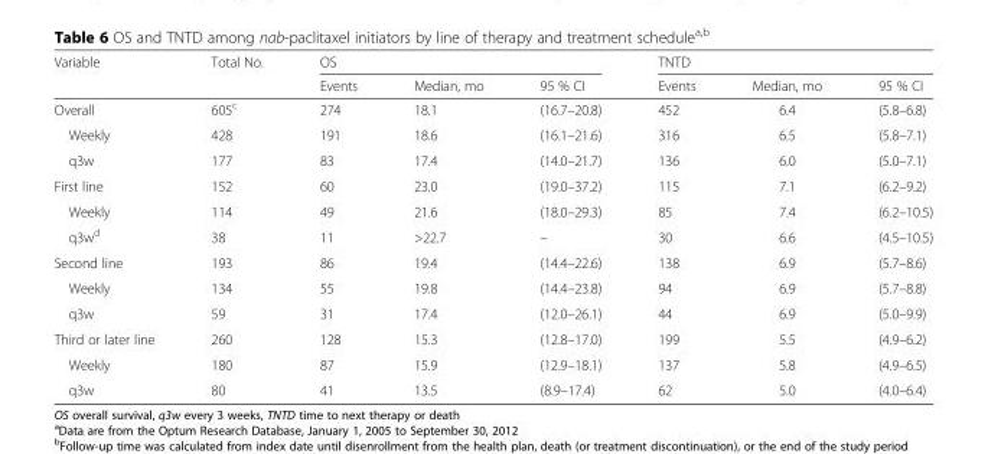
<table><thead><tr><td rowspan="2">Variable</td><td rowspan="2">Total No.</td><td colspan="3">OS</td><td colspan="3">TNTD</td></tr><tr><td>Events</td><td>Median, mo</td><td>95 % CI</td><td>Events</td><td>Median, mo</td><td>95 % CI</td></tr></thead><tbody><tr><td>Overall</td><td>605<sup>c</sup></td><td>274</td><td>18.1</td><td>(16.7–20.8)</td><td>452</td><td>6.4</td><td>(5.8–6.8)</td></tr><tr><td>Weekly</td><td>428</td><td>191</td><td>18.6</td><td>(16.1–21.6)</td><td>316</td><td>6.5</td><td>(5.8–7.1)</td></tr><tr><td>q3w</td><td>177</td><td>83</td><td>17.4</td><td>(14.0–21.7)</td><td>136</td><td>6.0</td><td>(5.0–7.1)</td></tr><tr><td>First line</td><td>152</td><td>60</td><td>23.0</td><td>(19.0–37.2)</td><td>115</td><td>7.1</td><td>(6.2–9.2)</td></tr><tr><td>Weekly</td><td>114</td><td>49</td><td>21.6</td><td>(18.0–29.3)</td><td>85</td><td>7.4</td><td>(6.2–10.5)</td></tr><tr><td>q3w<sup>d</sup></td><td>38</td><td>11</td><td>&gt;22.7</td><td>–</td><td>30</td><td>6.6</td><td>(4.5–10.5)</td></tr><tr><td>Second line</td><td>193</td><td>86</td><td>19.4</td><td>(14.4–22.6)</td><td>138</td><td>6.9</td><td>(5.7–8.6)</td></tr><tr><td>Weekly</td><td>134</td><td>55</td><td>19.8</td><td>(14.4–23.8)</td><td>94</td><td>6.9</td><td>(5.7–8.8)</td></tr><tr><td>q3w</td><td>59</td><td>31</td><td>17.4</td><td>(12.0–26.1)</td><td>44</td><td>6.9</td><td>(5.0–9.9)</td></tr><tr><td>Third or later line</td><td>260</td><td>128</td><td>15.3</td><td>(12.8–17.0)</td><td>199</td><td>5.5</td><td>(4.9–6.2)</td></tr><tr><td>Weekly</td><td>180</td><td>87</td><td>15.9</td><td>(12.9–18.1)</td><td>137</td><td>5.8</td><td>(4.9–6.5)</td></tr><tr><td>q3w</td><td>80</td><td>41</td><td>13.5</td><td>(8.9–17.4)</td><td>62</td><td>5.0</td><td>(4.0–6.4)</td></tr></tbody></table>